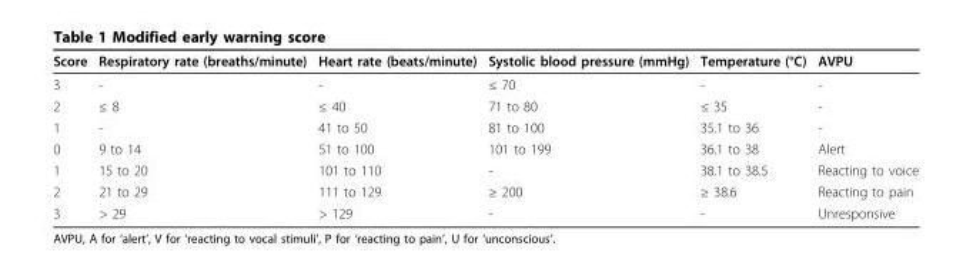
<table><thead><tr><td>Score</td><td>Respiratory rate (breaths/minute)</td><td>Heart rate (beats/minute)</td><td>Systolic blood pressure (mmHg)</td><td>Temperature (°C)</td><td>AVPU</td></tr></thead><tbody><tr><td>3</td><td>-</td><td>-</td><td>≤ 70</td><td>-</td><td>-</td></tr><tr><td>2</td><td>≤ 8</td><td>≤ 40</td><td>71 to 80</td><td>≤ 35</td><td>-</td></tr><tr><td>1</td><td>-</td><td>41 to 50</td><td>81 to 100</td><td>35.1 to 36</td><td>-</td></tr><tr><td>0</td><td>9 to 14</td><td>51 to 100</td><td>101 to 199</td><td>36.1 to 38</td><td>Alert</td></tr><tr><td>1</td><td>15 to 20</td><td>101 to 110</td><td>-</td><td>38.1 to 38.5</td><td>Reacting to voice</td></tr><tr><td>2</td><td>21 to 29</td><td>111 to 129</td><td>≥ 200</td><td>≥ 38.6</td><td>Reacting to pain</td></tr><tr><td>3</td><td>&gt; 29</td><td>&gt; 129</td><td>-</td><td>-</td><td>Unresponsive</td></tr></tbody></table>